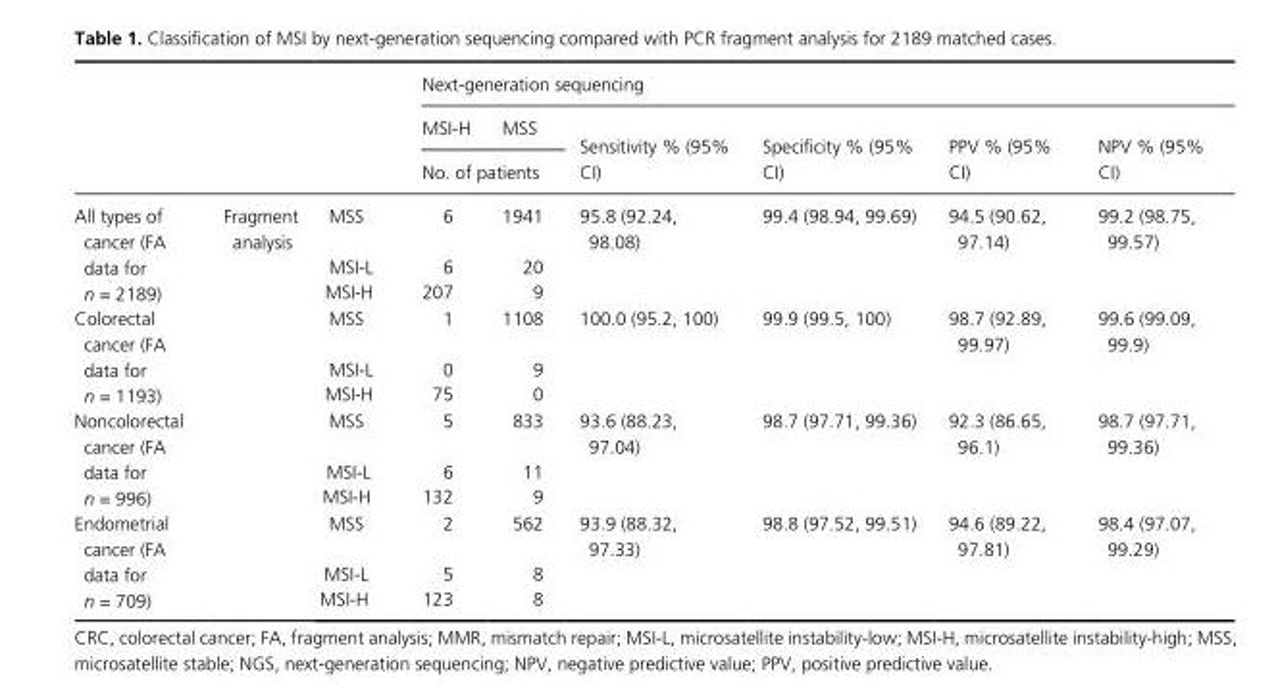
<table><thead><tr><td rowspan="3"></td><td rowspan="3"></td><td rowspan="3"></td><td colspan="6">Next- generation sequencing</td></tr><tr><td>MSI- H</td><td>MSS</td><td rowspan="2">Sensitivity % (95% CI)</td><td rowspan="2">Specificity % (95% CI)</td><td rowspan="2">PPV % (95% CI)</td><td rowspan="2">NPV % (95% CI)</td></tr><tr><td colspan="2">No. of patients</td></tr></thead><tbody><tr><td rowspan="3">All types of cancer (FA data for n = 2189)</td><td rowspan="12">Fragment analysis</td><td>MSS</td><td>6</td><td>1941</td><td>95.8 (92.24, 98.08)</td><td>99.4 (98.94, 99.69)</td><td>94.5 (90.62, 97.14)</td><td>99.2 (98.75, 99.57)</td></tr><tr><td>MSI- L</td><td>6</td><td>20</td><td></td><td></td><td></td><td></td></tr><tr><td>MSI- H</td><td>207</td><td>9</td><td></td><td></td><td></td><td></td></tr><tr><td rowspan="3">Colorectal cancer (FA data for n = 1193)</td><td>MSS</td><td>1</td><td>1108</td><td>100.0 (95.2, 100)</td><td>99.9 (99.5, 100)</td><td>98.7 (92.89, 99.97)</td><td>99.6 (99.09, 99.9)</td></tr><tr><td>MSI- L</td><td>0</td><td>9</td><td></td><td></td><td></td><td></td></tr><tr><td>MSI- H</td><td>75</td><td>0</td><td></td><td></td><td></td><td></td></tr><tr><td rowspan="3">Noncolorectal cancer (FA data for n = 996)</td><td>MSS</td><td>5</td><td>833</td><td>93.6 (88.23, 97.04)</td><td>98.7 (97.71, 99.36)</td><td>92.3 (86.65, 96.1)</td><td>98.7 (97.71, 99.36)</td></tr><tr><td>MSI- L</td><td>6</td><td>11</td><td></td><td></td><td></td><td></td></tr><tr><td>MSI- H</td><td>132</td><td>9</td><td></td><td></td><td></td><td></td></tr><tr><td rowspan="3">Endometrial cancer (FA data for n = 709)</td><td>MSS</td><td>2</td><td>562</td><td>93.9 (88.32, 97.33)</td><td>98.8 (97.52, 99.51)</td><td>94.6 (89.22, 97.81)</td><td>98.4 (97.07, 99.29)</td></tr><tr><td>MSI- L</td><td>5</td><td>8</td><td></td><td></td><td></td><td></td></tr><tr><td>MSI- H</td><td>123</td><td>8</td><td></td><td></td><td></td><td></td></tr></tbody></table>